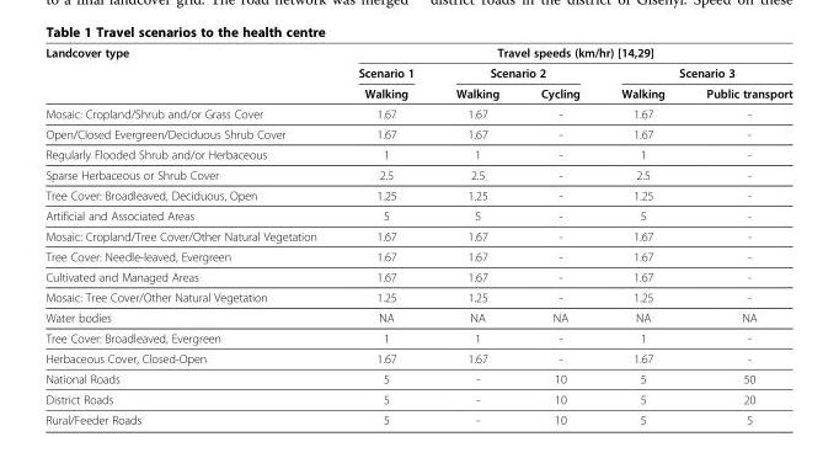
<table><thead><tr><td rowspan="3">Landcover type</td><td colspan="5">Travel speeds (km/hr) [14,29]</td></tr><tr><td rowspan="2">Scenario 1 Walking</td><td colspan="2">Scenario 2</td><td colspan="2">Scenario 3</td></tr><tr><td>Walking</td><td>Cycling</td><td>Walking</td><td>Public transport</td></tr></thead><tbody><tr><td>Mosaic: Cropland/Shrub and/or Grass Cover</td><td>1.67</td><td>1.67</td><td>-</td><td>1.67</td><td>-</td></tr><tr><td>Open/Closed Evergreen/Deciduous Shrub Cover</td><td>1.67</td><td>1.67</td><td>-</td><td>1.67</td><td>-</td></tr><tr><td>Regularly Flooded Shrub and/or Herbaceous</td><td>1</td><td>1</td><td>-</td><td>1</td><td>-</td></tr><tr><td>Sparse Herbaceous or Shrub Cover</td><td>2.5</td><td>2.5</td><td>-</td><td>2.5</td><td>-</td></tr><tr><td>Tree Cover: Broadleaved, Deciduous, Open</td><td>1.25</td><td>1.25</td><td>-</td><td>1.25</td><td>-</td></tr><tr><td>Artificial and Associated Areas</td><td>5</td><td>5</td><td>-</td><td>5</td><td>-</td></tr><tr><td>Mosaic: Cropland/Tree Cover/Other Natural Vegetation</td><td>1.67</td><td>1.67</td><td>-</td><td>1.67</td><td>-</td></tr><tr><td>Tree Cover: Needle-leaved, Evergreen</td><td>1.67</td><td>1.67</td><td>-</td><td>1.67</td><td>-</td></tr><tr><td>Cultivated and Managed Areas</td><td>1.67</td><td>1.67</td><td>-</td><td>1.67</td><td>-</td></tr><tr><td>Mosaic: Tree Cover/Other Natural Vegetation</td><td>1.25</td><td>1.25</td><td>-</td><td>1.25</td><td>-</td></tr><tr><td>Water bodies</td><td>NA</td><td>NA</td><td>NA</td><td>NA</td><td>NA</td></tr><tr><td>Tree Cover: Broadleaved, Evergreen</td><td>1</td><td>1</td><td>-</td><td>1</td><td>-</td></tr><tr><td>Herbaceous Cover, Closed-Open</td><td>1.67</td><td>1.67</td><td>-</td><td>1.67</td><td>-</td></tr><tr><td>National Roads</td><td>5</td><td>-</td><td>10</td><td>5</td><td>50</td></tr><tr><td>District Roads</td><td>5</td><td>-</td><td>10</td><td>5</td><td>20</td></tr><tr><td>Rural/Feeder Roads</td><td>5</td><td>-</td><td>10</td><td>5</td><td>5</td></tr></tbody></table>